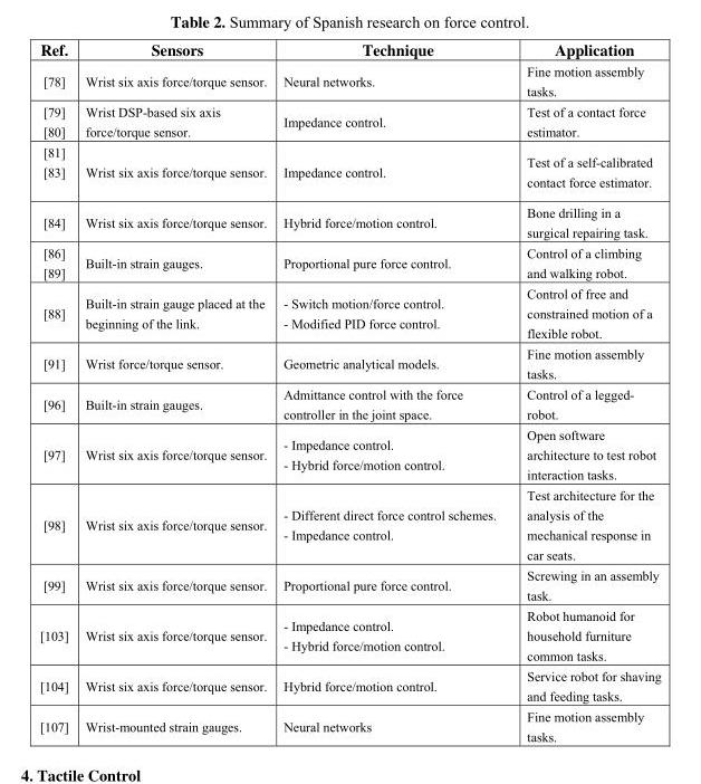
<table><thead><tr><td>Ref.</td><td>Sensors</td><td>Technique</td><td>Application</td></tr></thead><tbody><tr><td>[78]</td><td>Wrist six axis force/torque sensor.</td><td>Neural networks.</td><td>Fine motion assembly tasks.</td></tr><tr><td>[79] [80]</td><td>Wrist DSP-based six axis force/torque sensor.</td><td>Impedance control.</td><td>Test of a contact force estimator.</td></tr><tr><td>[81] [83]</td><td>Wrist six axis force/torque sensor.</td><td>Impedance control.</td><td>Test of a self-calibrated contact force estimator.</td></tr><tr><td>[84]</td><td>Wrist six axis force/torque sensor.</td><td>Hybrid force/motion control.</td><td>Bone drilling in a surgical repairing task.</td></tr><tr><td>[86] [89]</td><td>Built-in strain gauges.</td><td>Proportional pure force control.</td><td>Control of a climbing and walking robot.</td></tr><tr><td>[88]</td><td>Built-in strain gauge placed at the beginning of the link.</td><td>- Switch motion/force control. - Modified PID force control.</td><td>Control of free and constrained motion of a flexible robot.</td></tr><tr><td>[91]</td><td>Wrist force/torque sensor.</td><td>Geometric analytical models.</td><td>Fine motion assembly tasks.</td></tr><tr><td>[96]</td><td>Built-in strain gauges.</td><td>Admittance control with the force controller in the joint space.</td><td>Control of a legged- robot.</td></tr><tr><td>[97]</td><td>Wrist six axis force/torque sensor.</td><td>- Impedance control. - Hybrid force/motion control.</td><td>Open software architecture to test robot interaction tasks.</td></tr><tr><td>[98]</td><td>Wrist six axis force/torque sensor.</td><td>- Different direct force control schemes. - Impedance control.</td><td>Test architecture for the analysis of the mechanical response in car seats.</td></tr><tr><td>[99]</td><td>Wrist six axis force/torque sensor.</td><td>Proportional pure force control.</td><td>Screwing in an assembly task.</td></tr><tr><td>[103]</td><td>Wrist six axis force/torque sensor.</td><td>- Impedance control. - Hybrid force/motion control.</td><td>Robot humanoid for household furniture common tasks.</td></tr><tr><td>[104]</td><td>Wrist six axis force/torque sensor.</td><td>Hybrid force/motion control.</td><td>Service robot for shaving and feeding tasks.</td></tr><tr><td>[107]</td><td>Wrist-mounted strain gauges.</td><td>Neural networks</td><td>Fine motion assembly tasks.</td></tr></tbody></table>